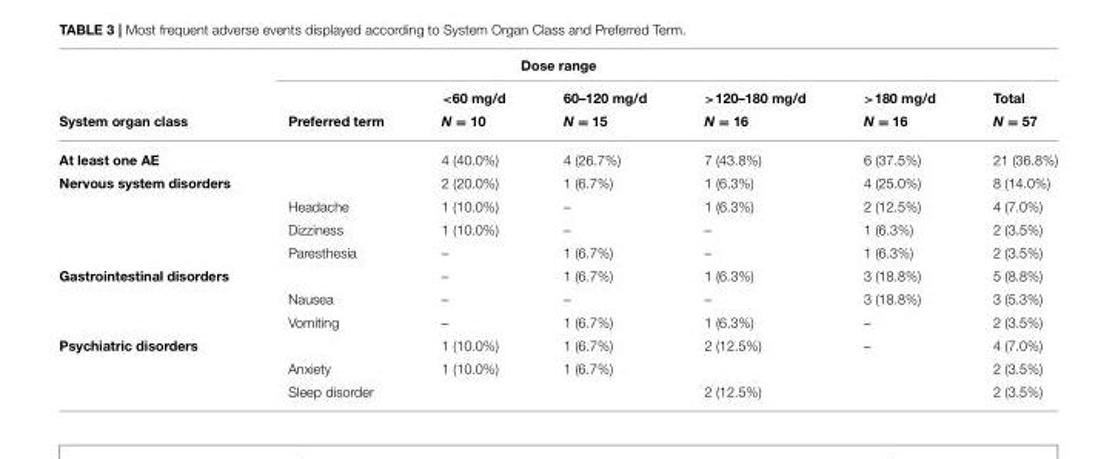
<table><thead><tr><td colspan="7">Dose range</td></tr><tr><td rowspan="2">System organ class</td><td rowspan="2">Preferred term</td><td rowspan="2">&lt;60 mg/d N = 10</td><td rowspan="2">60–120 mg/d N = 15</td><td rowspan="2">&gt;120–180 mg/d N = 16</td><td rowspan="2">&gt;180 mg/d N = 16</td><td rowspan="2">Total N = 57</td></tr><tr></tr></thead><tbody><tr><td>At least one AE</td><td></td><td>4 (40.0%)</td><td>4 (26.7%)</td><td>7 (43.8%)</td><td>6 (37.5%)</td><td>21 (36.8%)</td></tr><tr><td rowspan="4">Nervous system disorders</td><td></td><td>2 (20.0%)</td><td>1 (6.7%)</td><td>1 (6.3%)</td><td>4 (25.0%)</td><td>8 (14.0%)</td></tr><tr><td>Headache</td><td>1 (10.0%)</td><td>–</td><td>1 (6.3%)</td><td>2 (12.5%)</td><td>4 (7.0%)</td></tr><tr><td>Dizziness</td><td>1 (10.0%)</td><td>–</td><td>–</td><td>1 (6.3%)</td><td>2 (3.5%)</td></tr><tr><td>Paresthesia</td><td>–</td><td>1 (6.7%)</td><td>–</td><td>1 (6.3%)</td><td>2 (3.5%)</td></tr><tr><td rowspan="3">Gastrointestinal disorders</td><td></td><td>–</td><td>1 (6.7%)</td><td>1 (6.3%)</td><td>3 (18.8%)</td><td>5 (8.8%)</td></tr><tr><td>Nausea</td><td>–</td><td>–</td><td>–</td><td>3 (18.8%)</td><td>3 (5.3%)</td></tr><tr><td>Vomiting</td><td>–</td><td>1 (6.7%)</td><td>1 (6.3%)</td><td>–</td><td>2 (3.5%)</td></tr><tr><td rowspan="3">Psychiatric disorders</td><td></td><td>1 (10.0%)</td><td>1 (6.7%)</td><td>2 (12.5%)</td><td>–</td><td>4 (7.0%)</td></tr><tr><td>Anxiety</td><td>1 (10.0%)</td><td>1 (6.7%)</td><td></td><td></td><td>2 (3.5%)</td></tr><tr><td>Sleep disorder</td><td></td><td></td><td>2 (12.5%)</td><td></td><td>2 (3.5%)</td></tr></tbody></table>